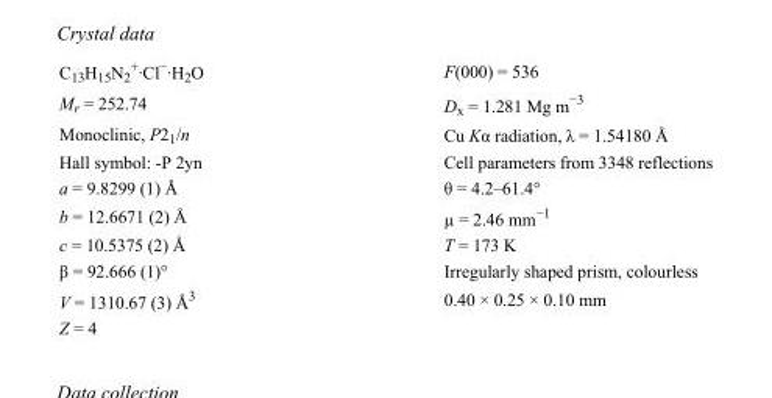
<table><tbody><tr><td>C<sub>13</sub>H<sub>15</sub>N<sub>2</sub> <sup>+</sup>·Cl<sup>−</sup>·H<sub>2</sub>O</td><td>F(000) = 536</td></tr><tr><td>M<sub>r</sub> = 252.74</td><td>D<sub>x</sub> = 1.281 Mg m<sup>−3</sup></td></tr><tr><td>Monoclinic, P2<sub>1</sub>/n</td><td>Cu Kα radiation, λ = 1.54180 Å</td></tr><tr><td>Hall symbol: -P 2yn</td><td>Cell parameters from 3348 reflections</td></tr><tr><td>a = 9.8299 (1) Å</td><td>θ = 4.2–61.4°</td></tr><tr><td>b = 12.6671 (2) Å</td><td>µ = 2.46 mm<sup>−1</sup></td></tr><tr><td>c = 10.5375 (2) Å</td><td>T = 173 K</td></tr><tr><td>β = 92.666 (1)°</td><td>Irregularly shaped prism, colourless</td></tr><tr><td>V = 1310.67 (3) Å<sup>3</sup></td><td>0.40 × 0.25 × 0.10 mm</td></tr><tr><td>Z = 4</td><td></td></tr></tbody></table>